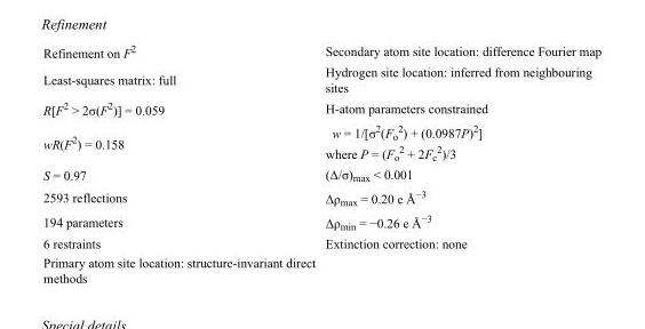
<table><tbody><tr><td>Refinement on F<sup>2</sup></td><td>Secondary atom site location: difference Fourier map</td></tr><tr><td>Least-squares matrix: full</td><td>Hydrogen site location: inferred from neighbouring sites</td></tr><tr><td>R[F<sup>2</sup> &gt; 2σ(F<sup>2</sup>)] = 0.059</td><td>H-atom parameters constrained</td></tr><tr><td>wR(F<sup>2</sup>) = 0.158</td><td>w = 1/[σ<sup>2</sup>(F<sub>o</sub> <sup>2</sup>) + (0.0987P)<sup>2</sup>] where P = (F<sub>o</sub> <sup>2</sup> + 2F<sub>c</sub> <sup>2</sup>)/3</td></tr><tr><td>S = 0.97</td><td>(Δ/σ)<sub>max</sub> &lt; 0.001</td></tr><tr><td>2593 reflections</td><td>Δρ<sub>max</sub> = 0.20 e Å<sup>−3</sup></td></tr><tr><td>194 parameters</td><td>Δρ<sub>min</sub> = −0.26 e Å<sup>−3</sup></td></tr><tr><td>6 restraints</td><td>Extinction correction: none</td></tr><tr><td>Primary atom site location: structure-invariant direct methods</td><td></td></tr></tbody></table>